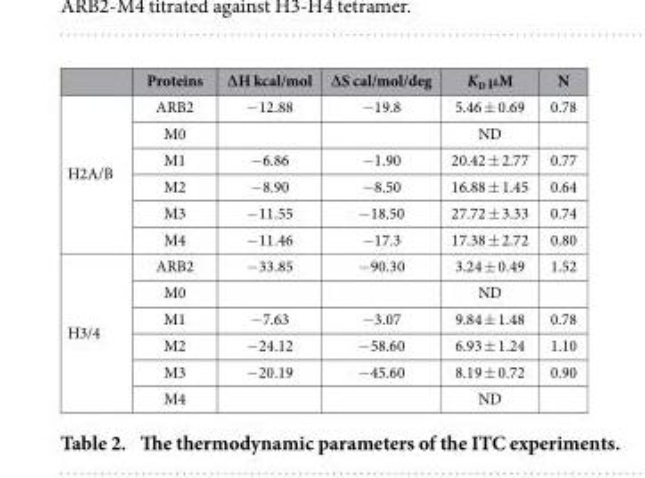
<table><thead><tr><td></td><td>Proteins</td><td>∆H kcal/mol</td><td>∆S cal/mol/deg</td><td>K<sub>D</sub> μM</td><td>N</td></tr></thead><tbody><tr><td rowspan="6">H2A/B</td><td>ARB2</td><td>− 12.88</td><td>− 19.8</td><td>5.46 ± 0.69</td><td>0.78</td></tr><tr><td>M0</td><td></td><td></td><td>ND</td><td></td></tr><tr><td>M1</td><td>− 6.86</td><td>− 1.90</td><td>20.42 ± 2.77</td><td>0.77</td></tr><tr><td>M2</td><td>− 8.90</td><td>− 8.50</td><td>16.88 ± 1.45</td><td>0.64</td></tr><tr><td>M3</td><td>− 11.55</td><td>− 18.50</td><td>27.72 ± 3.33</td><td>0.74</td></tr><tr><td>M4</td><td>− 11.46</td><td>− 17.3</td><td>17.38 ± 2.72</td><td>0.80</td></tr><tr><td rowspan="6">H3/4</td><td>ARB2</td><td>− 33.85</td><td>− 90.30</td><td>3.24 ± 0.49</td><td>1.52</td></tr><tr><td>M0</td><td></td><td></td><td>ND</td><td></td></tr><tr><td>M1</td><td>− 7.63</td><td>− 3.07</td><td>9.84 ± 1.48</td><td>0.78</td></tr><tr><td>M2</td><td>− 24.12</td><td>− 58.60</td><td>6.93 ± 1.24</td><td>1.10</td></tr><tr><td>M3</td><td>− 20.19</td><td>− 45.60</td><td>8.19 ± 0.72</td><td>0.90</td></tr><tr><td>M4</td><td></td><td></td><td>ND</td><td></td></tr></tbody></table>